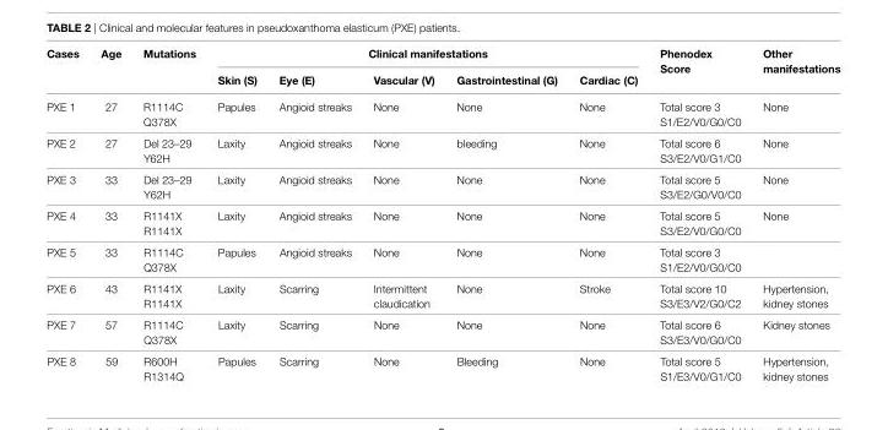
<table><thead><tr><td rowspan="2">cases</td><td rowspan="2">age</td><td rowspan="2">Mutations</td><td colspan="5">clinical manifestations</td><td rowspan="2">Phenodex score</td><td rowspan="2">Other manifestations</td></tr><tr><td>skin (s)</td><td>eye (e)</td><td>Vascular (V)</td><td>gastrointestinal (g)</td><td>cardiac (c)</td></tr></thead><tbody><tr><td>PXE 1</td><td>27</td><td>R1114C Q378X</td><td>Papules</td><td>Angioid streaks</td><td>None</td><td>None</td><td>None</td><td>Total score 3 S1/E2/V0/G0/C0</td><td>None</td></tr><tr><td>PXE 2</td><td>27</td><td>Del 23–29 Y62H</td><td>Laxity</td><td>Angioid streaks</td><td>None</td><td>bleeding</td><td>None</td><td>Total score 6 S3/E2/V0/G1/C0</td><td>None</td></tr><tr><td>PXE 3</td><td>33</td><td>Del 23–29 Y62H</td><td>Laxity</td><td>Angioid streaks</td><td>None</td><td>None</td><td>None</td><td>Total score 5 S3/E2/G0/V0/C0</td><td>None</td></tr><tr><td>PXE 4</td><td>33</td><td>R1141X R1141X</td><td>Laxity</td><td>Angioid streaks</td><td>None</td><td>None</td><td>None</td><td>Total score 5 S3/E2/V0/G0/C0</td><td>None</td></tr><tr><td>PXE 5</td><td>33</td><td>R1114C Q378X</td><td>Papules</td><td>Angioid streaks</td><td>None</td><td>None</td><td>None</td><td>Total score 3 S1/E2/V0/G0/C0</td><td></td></tr><tr><td>PXE 6</td><td>43</td><td>R1141X R1141X</td><td>Laxity</td><td>Scarring</td><td>Intermittent claudication</td><td>None</td><td>Stroke</td><td>Total score 10 S3/E3/V2/G0/C2</td><td>Hypertension, kidney stones</td></tr><tr><td>PXE 7</td><td>57</td><td>R1114C Q378X</td><td>Laxity</td><td>Scarring</td><td>None</td><td>None</td><td>None</td><td>Total score 6 S3/E3/V0/G0/C0</td><td>Kidney stones</td></tr><tr><td>PXE 8</td><td>59</td><td>R600H R1314Q</td><td>Papules</td><td>Scarring</td><td>None</td><td>Bleeding</td><td>None</td><td>Total score 5 S1/E3/V0/G1/C0</td><td>Hypertension, kidney stones</td></tr></tbody></table>